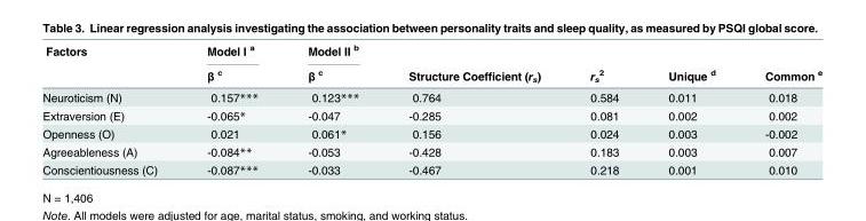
<table><thead><tr><td rowspan="2">Factors</td><td rowspan="2">Model I <sup>a</sup> β <sup>c</sup></td><td rowspan="2">Model II <sup>b</sup> β <sup>c</sup></td><td rowspan="2">Structure Coefficient (r<sub>s</sub>)</td><td rowspan="2">r<sub>s</sub> <sup>2</sup></td><td rowspan="2">Unique <sup>d</sup></td><td rowspan="2">Common <sup>e</sup></td></tr><tr></tr></thead><tbody><tr><td>Neuroticism (N)</td><td>0.157***</td><td>0.123***</td><td>0.764</td><td>0.584</td><td>0.011</td><td>0.018</td></tr><tr><td>Extraversion (E)</td><td>-0.065*</td><td>-0.047</td><td>-0.285</td><td>0.081</td><td>0.002</td><td>0.002</td></tr><tr><td>Openness (O)</td><td>0.021</td><td>0.061*</td><td>0.156</td><td>0.024</td><td>0.003</td><td>-0.002</td></tr><tr><td>Agreeableness (A)</td><td>-0.084**</td><td>-0.053</td><td>-0.428</td><td>0.183</td><td>0.003</td><td>0.007</td></tr><tr><td>Conscientiousness (C)</td><td>-0.087***</td><td>-0.033</td><td>-0.467</td><td>0.218</td><td>0.001</td><td>0.010</td></tr></tbody></table>